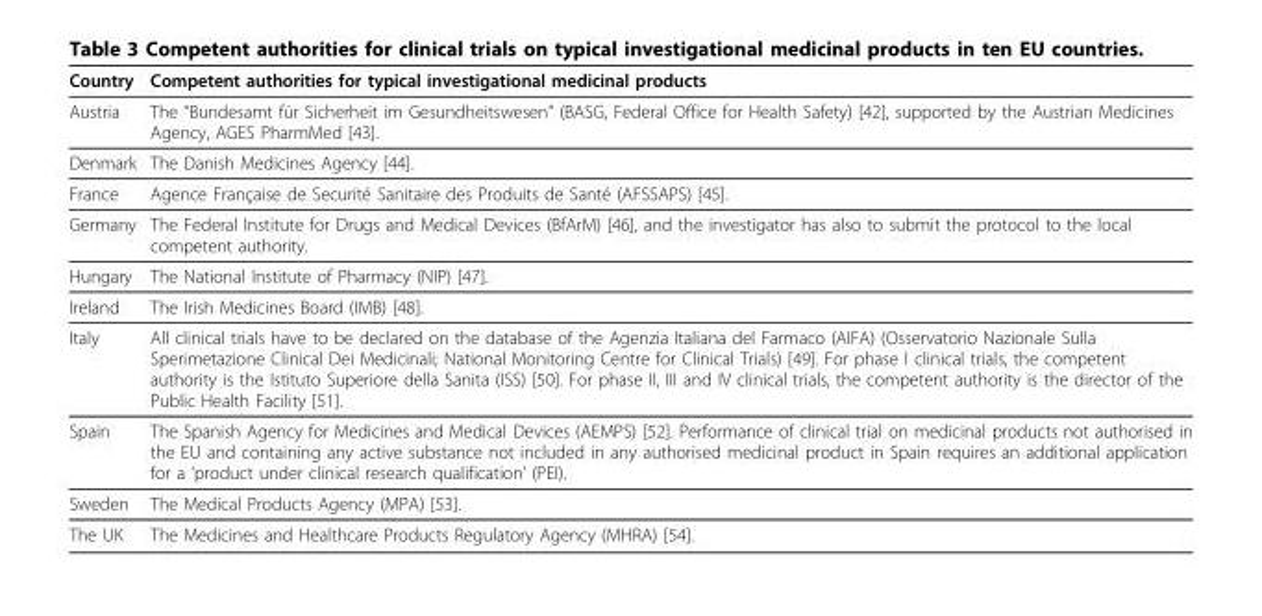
<table><thead><tr><td>Country</td><td>Competent authorities for typical investigational medicinal products</td></tr></thead><tbody><tr><td>Austria</td><td>The “Bundesamt für Sicherheit im Gesundheitswesen” (BASG, Federal Office for Health Safety) [42], supported by the Austrian Medicines Agency, AGES PharmMed [43].</td></tr><tr><td>Denmark</td><td>The Danish Medicines Agency [44].</td></tr><tr><td>France</td><td>Agence Française de Securité Sanitaire des Produits de Santé (AFSSAPS) [45].</td></tr><tr><td>Germany</td><td>The Federal Institute for Drugs and Medical Devices (BfArM) [46], and the investigator has also to submit the protocol to the local competent authority.</td></tr><tr><td>Hungary</td><td>The National Institute of Pharmacy (NIP) [47].</td></tr><tr><td>Ireland</td><td>The Irish Medicines Board (IMB) [48].</td></tr><tr><td>Italy</td><td>All clinical trials have to be declared on the database of the Agenzia Italiana del Farmaco (AIFA) (Osservatorio Nazionale Sulla Sperimetazione Clinical Dei Medicinali; National Monitoring Centre for Clinical Trials) [49]. For phase I clinical trials, the competent authority is the Istituto Superiore della Sanita (ISS) [50]. For phase II, III and IV clinical trials, the competent authority is the director of the Public Health Facility [51].</td></tr><tr><td>Spain</td><td>The Spanish Agency for Medicines and Medical Devices (AEMPS) [52]. Performance of clinical trial on medicinal products not authorised in the EU and containing any active substance not included in any authorised medicinal product in Spain requires an additional application for a ‘product under clinical research qualification’ (PEI).</td></tr><tr><td>Sweden</td><td>The Medical Products Agency (MPA) [53].</td></tr><tr><td>The UK</td><td>The Medicines and Healthcare Products Regulatory Agency (MHRA) [54].</td></tr></tbody></table>